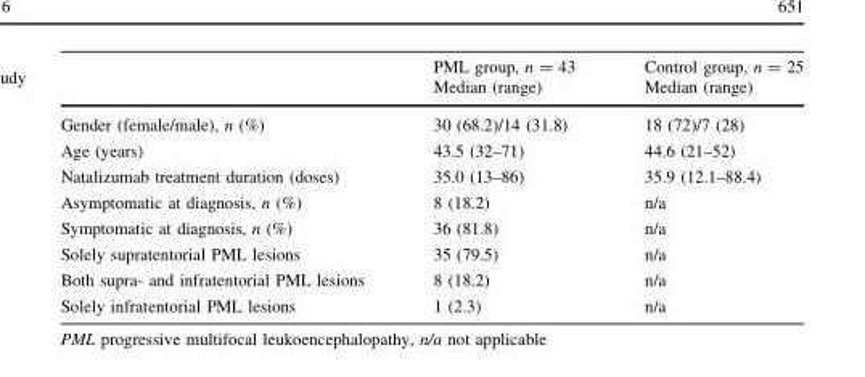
<table><thead><tr><td></td><td>PML group, n = 43 Median (range)</td><td>Control group, n = 25 Median (range)</td></tr></thead><tbody><tr><td>Gender (female/male), n (%)</td><td>30 (68.2)/14 (31.8)</td><td>18 (72)/7 (28)</td></tr><tr><td>Age (years)</td><td>43.5 (32–71)</td><td>44.6 (21–52)</td></tr><tr><td>Natalizumab treatment duration (doses)</td><td>35.0 (13–86)</td><td>35.9 (12.1–88.4)</td></tr><tr><td>Asymptomatic at diagnosis, n (%)</td><td>8 (18.2)</td><td>n/a</td></tr><tr><td>Symptomatic at diagnosis, n (%)</td><td>36 (81.8)</td><td>n/a</td></tr><tr><td>Solely supratentorial PML lesions</td><td>35 (79.5)</td><td>n/a</td></tr><tr><td>Both supra- and infratentorial PML lesions</td><td>8 (18.2)</td><td>n/a</td></tr><tr><td>Solely infratentorial PML lesions</td><td>1 (2.3)</td><td>n/a</td></tr></tbody></table>